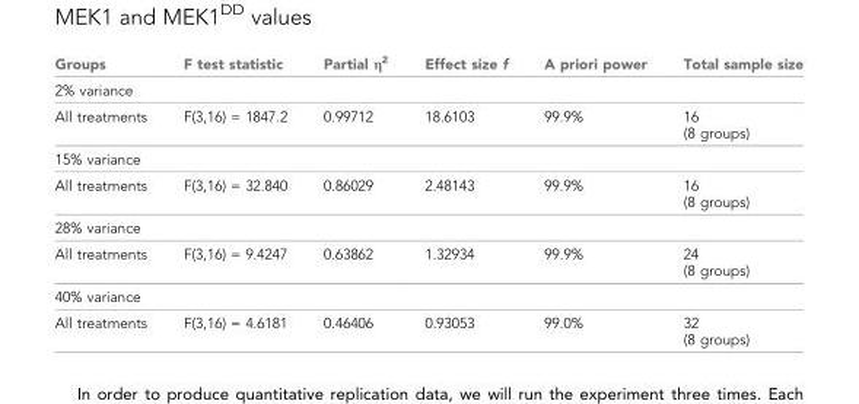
<table><thead><tr><td>Groups</td><td>F test statistic</td><td>Partial η<sup>2</sup></td><td>Effect size f</td><td>A priori power</td><td>Total sample size</td></tr></thead><tbody><tr><td colspan="6">2% variance</td></tr><tr><td>All treatments</td><td>F(3,16) = 1847.2</td><td>0.99712</td><td>18.6103</td><td>99.9%</td><td>16 (8 groups)</td></tr><tr><td colspan="6">15% variance</td></tr><tr><td>All treatments</td><td>F(3,16) = 32.840</td><td>0.86029</td><td>2.48143</td><td>99.9%</td><td>16 (8 groups)</td></tr><tr><td colspan="6">28% variance</td></tr><tr><td>All treatments</td><td>F(3,16) = 9.4247</td><td>0.63862</td><td>1.32934</td><td>99.9%</td><td>24 (8 groups)</td></tr><tr><td colspan="6">40% variance</td></tr><tr><td>All treatments</td><td>F(3,16) = 4.6181</td><td>0.46406</td><td>0.93053</td><td>99.0%</td><td>32 (8 groups)</td></tr></tbody></table>